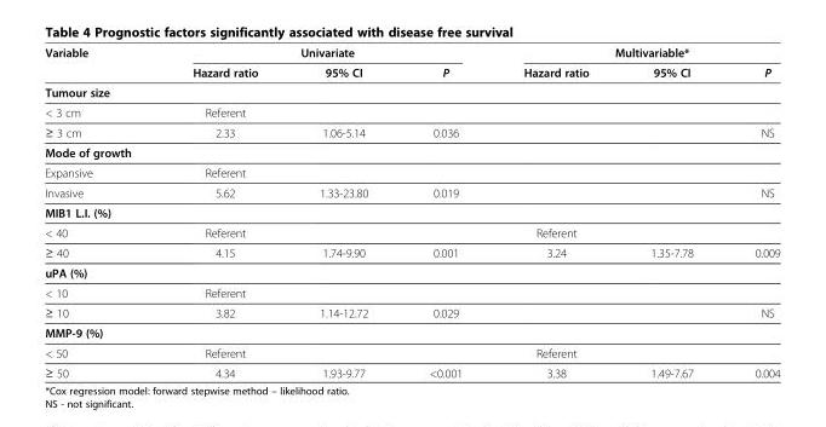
<table><thead><tr><td rowspan="2">Variable</td><td colspan="3">Univariate</td><td colspan="3">Multivariable*</td></tr><tr><td>Hazard ratio</td><td>95% CI</td><td>P</td><td>Hazard ratio</td><td>95% CI</td><td>P</td></tr></thead><tbody><tr><td colspan="7">Tumour size</td></tr><tr><td>&lt; 3 cm</td><td>Referent</td><td></td><td></td><td></td><td></td><td></td></tr><tr><td>≥ 3 cm</td><td>2.33</td><td>1.06-5.14</td><td>0.036</td><td></td><td></td><td>NS</td></tr><tr><td colspan="7">Mode of growth</td></tr><tr><td>Expansive</td><td>Referent</td><td></td><td></td><td></td><td></td><td></td></tr><tr><td>Invasive</td><td>5.62</td><td>1.33-23.80</td><td>0.019</td><td></td><td></td><td>NS</td></tr><tr><td colspan="7">MIB1 L.I. (%)</td></tr><tr><td>&lt; 40</td><td>Referent</td><td></td><td></td><td>Referent</td><td></td><td></td></tr><tr><td>≥ 40</td><td>4.15</td><td>1.74-9.90</td><td>0.001</td><td>3.24</td><td>1.35-7.78</td><td>0.009</td></tr><tr><td colspan="7">uPA (%)</td></tr><tr><td>&lt; 10</td><td>Referent</td><td></td><td></td><td></td><td></td><td></td></tr><tr><td>≥ 10</td><td>3.82</td><td>1.14-12.72</td><td>0.029</td><td></td><td></td><td>NS</td></tr><tr><td colspan="7">MMP-9 (%)</td></tr><tr><td>&lt; 50</td><td>Referent</td><td></td><td></td><td>Referent</td><td></td><td></td></tr><tr><td>≥ 50</td><td>4.34</td><td>1.93-9.77</td><td>&lt;0.001</td><td>3.38</td><td>1.49-7.67</td><td>0.004</td></tr></tbody></table>